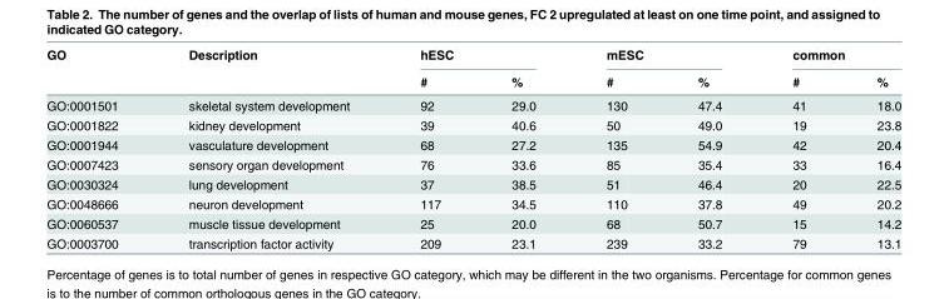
<table><thead><tr><td rowspan="2">GO</td><td rowspan="2">Description</td><td colspan="2">hESC</td><td colspan="2">mESC</td><td colspan="2">common</td></tr><tr><td>#</td><td>%</td><td>#</td><td>%</td><td>#</td><td>%</td></tr></thead><tbody><tr><td>GO:0001501</td><td>skeletal system development</td><td>92</td><td>29.0</td><td>130</td><td>47.4</td><td>41</td><td>18.0</td></tr><tr><td>GO:0001822</td><td>kidney development</td><td>39</td><td>40.6</td><td>50</td><td>49.0</td><td>19</td><td>23.8</td></tr><tr><td>GO:0001944</td><td>vasculature development</td><td>68</td><td>27.2</td><td>135</td><td>54.9</td><td>42</td><td>20.4</td></tr><tr><td>GO:0007423</td><td>sensory organ development</td><td>76</td><td>33.6</td><td>85</td><td>35.4</td><td>33</td><td>16.4</td></tr><tr><td>GO:0030324</td><td>lung development</td><td>37</td><td>38.5</td><td>51</td><td>46.4</td><td>20</td><td>22.5</td></tr><tr><td>GO:0048666</td><td>neuron development</td><td>117</td><td>34.5</td><td>110</td><td>37.8</td><td>49</td><td>20.2</td></tr><tr><td>GO:0060537</td><td>muscle tissue development</td><td>25</td><td>20.0</td><td>68</td><td>50.7</td><td>15</td><td>14.2</td></tr><tr><td>GO:0003700</td><td>transcription factor activity</td><td>209</td><td>23.1</td><td>239</td><td>33.2</td><td>79</td><td>13.1</td></tr></tbody></table>